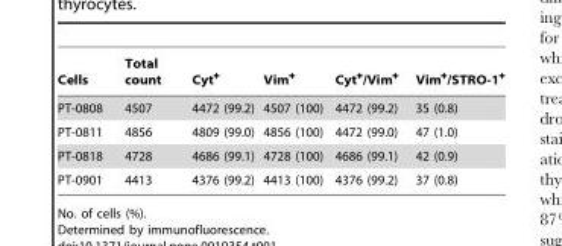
<table><thead><tr><td>Cells</td><td>Total count</td><td>Cyt<sup>+</sup></td><td>Vim<sup>+</sup></td><td>Cyt<sup>+</sup>/Vim<sup>+</sup></td><td>Vim<sup>+</sup>/STRO-1<sup>+</sup></td></tr></thead><tbody><tr><td>PT-0808</td><td>4507</td><td>4472 (99.2)</td><td>4507 (100)</td><td>4472 (99.2)</td><td>35 (0.8)</td></tr><tr><td>PT-0811</td><td>4856</td><td>4809 (99.0)</td><td>4856 (100)</td><td>4472 (99.0)</td><td>47 (1.0)</td></tr><tr><td>PT-0818</td><td>4728</td><td>4686 (99.1)</td><td>4728 (100)</td><td>4686 (99.1)</td><td>42 (0.9)</td></tr><tr><td>PT-0901</td><td>4413</td><td>4376 (99.2)</td><td>4413 (100)</td><td>4376 (99.2)</td><td>37 (0.8)</td></tr></tbody></table>